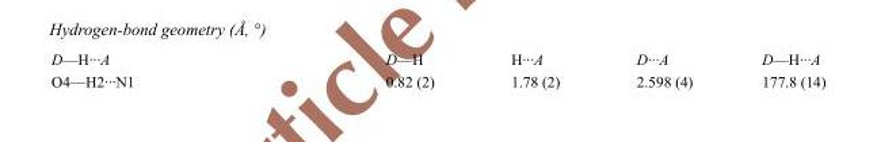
<table><tbody><tr><td>D—H···A</td><td>D—H</td><td>H···A</td><td>D···A</td><td>D—H···A</td></tr><tr><td>O4—H2···N1</td><td>0.82 (2)</td><td>1.78 (2)</td><td>2.598 (4)</td><td>177.8 (14)</td></tr></tbody></table>